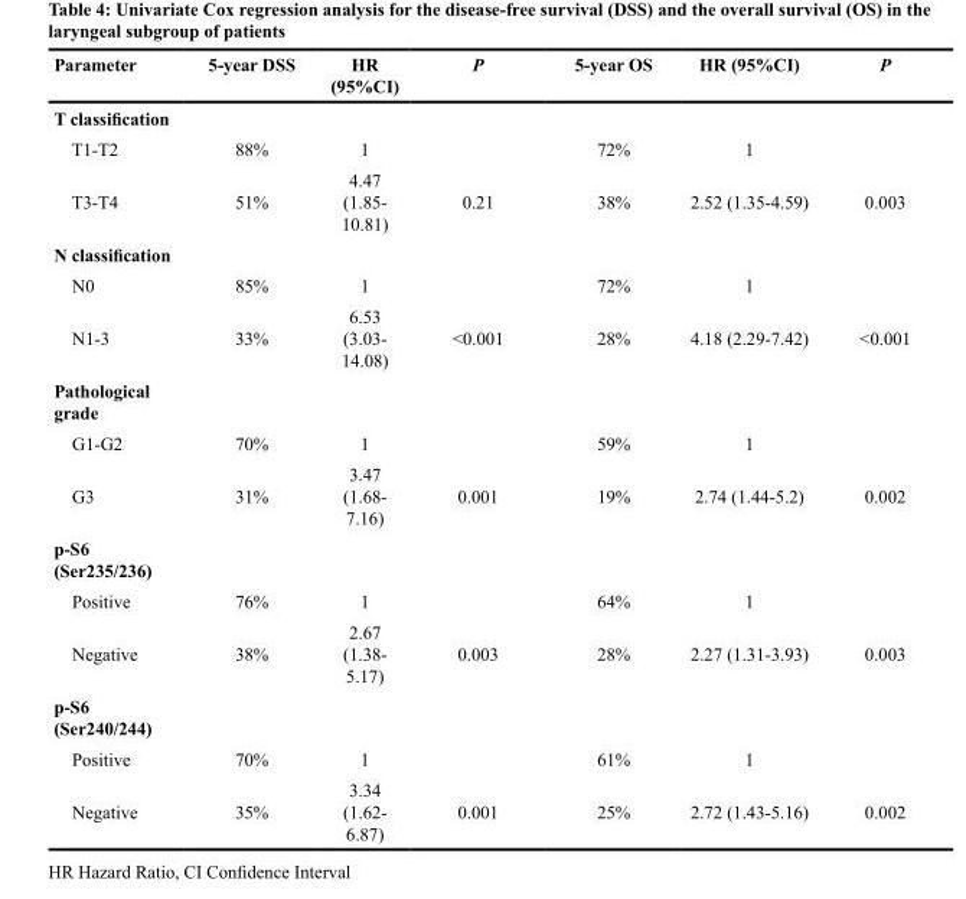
<table><thead><tr><td>Parameter</td><td>5-year DSS</td><td>HR (95%CI)</td><td>P</td><td>5-year OS</td><td>HR (95%CI)</td><td>P</td></tr></thead><tbody><tr><td colspan="7">T classification</td></tr><tr><td>T1-T2</td><td>88%</td><td>1</td><td></td><td>72%</td><td>1</td><td></td></tr><tr><td>T3-T4</td><td>51%</td><td>4.47 (1.85- 10.81)</td><td>0.21</td><td>38%</td><td>2.52 (1.35-4.59)</td><td>0.003</td></tr><tr><td colspan="7">N classification</td></tr><tr><td>N0</td><td>85%</td><td>1</td><td></td><td>72%</td><td>1</td><td></td></tr><tr><td>N1-3</td><td>33%</td><td>6.53 (3.03- 14.08)</td><td>&lt;0.001</td><td>28%</td><td>4.18 (2.29-7.42)</td><td>&lt;0.001</td></tr><tr><td colspan="7">Pathological grade</td></tr><tr><td>G1-G2</td><td>70%</td><td>1</td><td></td><td>59%</td><td>1</td><td></td></tr><tr><td>G3</td><td>31%</td><td>3.47 (1.68- 7.16)</td><td>0.001</td><td>19%</td><td>2.74 (1.44-5.2)</td><td>0.002</td></tr><tr><td colspan="7">p-S6 (Ser235/236)</td></tr><tr><td>Positive</td><td>76%</td><td>1</td><td></td><td>64%</td><td>1</td><td></td></tr><tr><td>Negative</td><td>38%</td><td>2.67 (1.38- 5.17)</td><td>0.003</td><td>28%</td><td>2.27 (1.31-3.93)</td><td>0.003</td></tr><tr><td colspan="7">p-S6 (Ser240/244)</td></tr><tr><td>Positive</td><td>70%</td><td>1</td><td></td><td>61%</td><td>1</td><td></td></tr><tr><td>Negative</td><td>35%</td><td>3.34 (1.62- 6.87)</td><td>0.001</td><td>25%</td><td>2.72 (1.43-5.16)</td><td>0.002</td></tr></tbody></table>